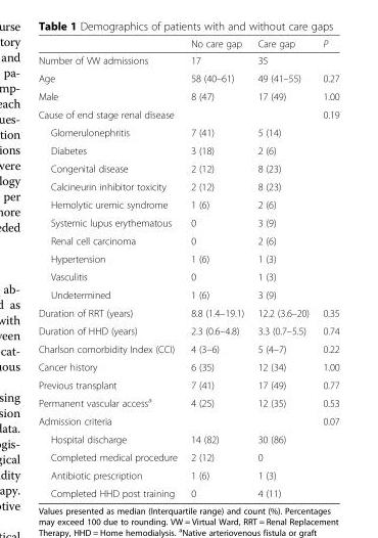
<table><thead><tr><td></td><td>No care gap</td><td>Care gap</td><td>P</td></tr></thead><tbody><tr><td>Number of VW admissions</td><td>17</td><td>35</td><td></td></tr><tr><td>Age</td><td>58 (40–61)</td><td>49 (41–55)</td><td>0.27</td></tr><tr><td>Male</td><td>8 (47)</td><td>17 (49)</td><td>1.00</td></tr><tr><td>Cause of end stage renal disease</td><td></td><td></td><td>0.19</td></tr><tr><td>Glomerulonephritis</td><td>7 (41)</td><td>5 (14)</td><td></td></tr><tr><td>Diabetes</td><td>3 (18)</td><td>2 (6)</td><td></td></tr><tr><td>Congenital disease</td><td>2 (12)</td><td>8 (23)</td><td></td></tr><tr><td>Calcineurin inhibitor toxicity</td><td>2 (12)</td><td>8 (23)</td><td rowspan="7"></td></tr><tr><td>Hemolytic uremic syndrome</td><td>1 (6)</td><td>2 (6)</td></tr><tr><td>Systemic lupus erythematous</td><td>0</td><td>3 (9)</td></tr><tr><td>Renal cell carcinoma</td><td>0</td><td>2 (6)</td></tr><tr><td>Hypertension</td><td>1 (6)</td><td>1 (3)</td></tr><tr><td>Vasculitis</td><td>0</td><td>1 (3)</td></tr><tr><td>Undetermined</td><td>1 (6)</td><td>3 (9)</td></tr><tr><td>Duration of RRT (years)</td><td>8.8 (1.4–19.1)</td><td>12.2 (3.6–20)</td><td>0.35</td></tr><tr><td>Duration of HHD (years)</td><td>2.3 (0.6–4.8)</td><td>3.3 (0.7–5.5)</td><td>0.74</td></tr><tr><td>Charlson comorbidity Index (CCI)</td><td>4 (3–6)</td><td>5 (4–7)</td><td>0.22</td></tr><tr><td>Cancer history</td><td>6 (35)</td><td>12 (34)</td><td>1.00</td></tr><tr><td>Previous transplant</td><td>7 (41)</td><td>17 (49)</td><td>0.77</td></tr><tr><td>Permanent vascular access<sup>a</sup></td><td>4 (25)</td><td>12 (35)</td><td>0.53</td></tr><tr><td>Admission criteria</td><td></td><td></td><td>0.07</td></tr><tr><td>Hospital discharge</td><td>14 (82)</td><td>30 (86)</td><td></td></tr><tr><td>Completed medical procedure</td><td>2 (12)</td><td>0</td><td></td></tr><tr><td>Antibiotic prescription</td><td>1 (6)</td><td>1 (3)</td><td></td></tr><tr><td>Completed HHD post training</td><td>0</td><td>4 (11)</td><td></td></tr></tbody></table>